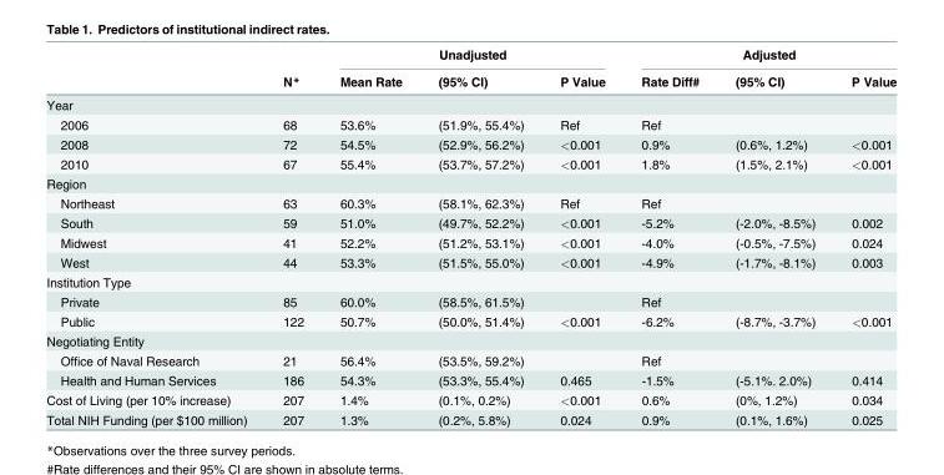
<table><thead><tr><td rowspan="2"></td><td rowspan="2">N*</td><td colspan="3">Unadjusted</td><td colspan="3">Adjusted</td></tr><tr><td>Mean Rate</td><td>(95% CI)</td><td>P Value</td><td>Rate Diff#</td><td>(95% CI)</td><td>P Value</td></tr></thead><tbody><tr><td colspan="8">Year</td></tr><tr><td>2006</td><td>68</td><td>53.6%</td><td>(51.9%, 55.4%)</td><td>Ref</td><td>Ref</td><td></td><td></td></tr><tr><td>2008</td><td>72</td><td>54.5%</td><td>(52.9%, 56.2%)</td><td>&lt;0.001</td><td>0.9%</td><td>(0.6%, 1.2%)</td><td>&lt;0.001</td></tr><tr><td>2010</td><td>67</td><td>55.4%</td><td>(53.7%, 57.2%)</td><td>&lt;0.001</td><td>1.8%</td><td>(1.5%, 2.1%)</td><td>&lt;0.001</td></tr><tr><td colspan="8">Region</td></tr><tr><td>Northeast</td><td>63</td><td>60.3%</td><td>(58.1%, 62.3%)</td><td>Ref</td><td>Ref</td><td></td><td></td></tr><tr><td>South</td><td>59</td><td>51.0%</td><td>(49.7%, 52.2%)</td><td>&lt;0.001</td><td>-5.2%</td><td>(-2.0%, -8.5%)</td><td>0.002</td></tr><tr><td>Midwest</td><td>41</td><td>52.2%</td><td>(51.2%, 53.1%)</td><td>&lt;0.001</td><td>-4.0%</td><td>(-0.5%, -7.5%)</td><td>0.024</td></tr><tr><td>West</td><td>44</td><td>53.3%</td><td>(51.5%, 55.0%)</td><td>&lt;0.001</td><td>-4.9%</td><td>(-1.7%, -8.1%)</td><td>0.003</td></tr><tr><td colspan="8">Institution Type</td></tr><tr><td>Private</td><td>85</td><td>60.0%</td><td>(58.5%, 61.5%)</td><td></td><td>Ref</td><td></td><td></td></tr><tr><td>Public</td><td>122</td><td>50.7%</td><td>(50.0%, 51.4%)</td><td>&lt;0.001</td><td>-6.2%</td><td>(-8.7%, -3.7%)</td><td>&lt;0.001</td></tr><tr><td colspan="8">Negotiating Entity</td></tr><tr><td>Office of Naval Research</td><td>21</td><td>56.4%</td><td>(53.5%, 59.2%)</td><td></td><td>Ref</td><td></td><td></td></tr><tr><td>Health and Human Services</td><td>186</td><td>54.3%</td><td>(53.3%, 55.4%)</td><td>0.465</td><td>-1.5%</td><td>(-5.1%. 2.0%)</td><td>0.414</td></tr><tr><td>Cost of Living (per 10% increase)</td><td>207</td><td>1.4%</td><td>(0.1%, 0.2%)</td><td>&lt;0.001</td><td>0.6%</td><td>(0%, 1.2%)</td><td>0.034</td></tr><tr><td>Total NIH Funding (per $100 million)</td><td>207</td><td>1.3%</td><td>(0.2%, 5.8%)</td><td>0.024</td><td>0.9%</td><td>(0.1%, 1.6%)</td><td>0.025</td></tr></tbody></table>